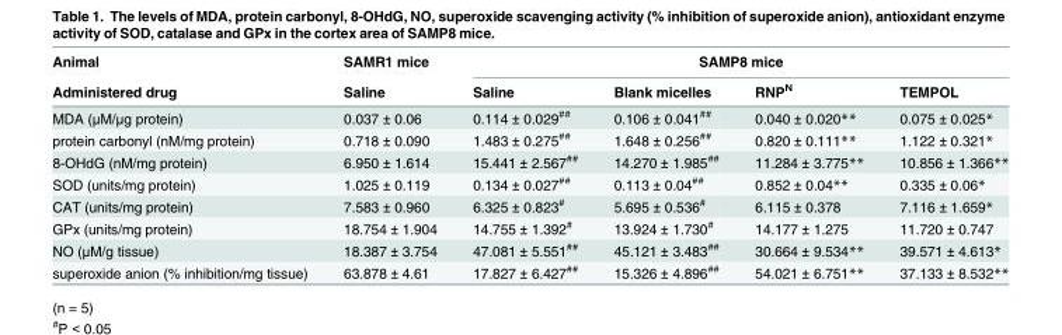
<table><thead><tr><td rowspan="2">Animal Administered drug</td><td rowspan="2">SAMR1 mice Saline</td><td colspan="4">SAMP8 mice</td></tr><tr><td>Saline</td><td>Blank micelles</td><td>RNP<sup>N</sup></td><td>TEMPOL</td></tr></thead><tbody><tr><td>MDA (μM/μg protein)</td><td>0.037 ± 0.06</td><td>0.114 ± 0.029<sup>##</sup></td><td>0.106 ± 0.041<sup>##</sup></td><td>0.040 ± 0.020**</td><td>0.075 ± 0.025*</td></tr><tr><td>protein carbonyl (nM/mg protein)</td><td>0.718 ± 0.090</td><td>1.483 ± 0.275<sup>##</sup></td><td>1.648 ± 0.256<sup>##</sup></td><td>0.820 ± 0.111**</td><td>1.122 ± 0.321*</td></tr><tr><td>8-OHdG (nM/mg protein)</td><td>6.950 ± 1.614</td><td>15.441 ± 2.567<sup>##</sup></td><td>14.270 ± 1.985<sup>##</sup></td><td>11.284 ± 3.775**</td><td>10.856 ± 1.366**</td></tr><tr><td>SOD (units/mg protein)</td><td>1.025 ± 0.119</td><td>0.134 ± 0.027<sup>##</sup></td><td>0.113 ± 0.04<sup>##</sup></td><td>0.852 ± 0.04**</td><td>0.335 ± 0.06*</td></tr><tr><td>CAT (units/mg protein)</td><td>7.583 ± 0.960</td><td>6.325 ± 0.823<sup>#</sup></td><td>5.695 ± 0.536<sup>#</sup></td><td>6.115 ± 0.378</td><td>7.116 ± 1.659*</td></tr><tr><td>GPx (units/mg protein)</td><td>18.754 ± 1.904</td><td>14.755 ± 1.392<sup>#</sup></td><td>13.924 ± 1.730<sup>#</sup></td><td>14.177 ± 1.275</td><td>11.720 ± 0.747</td></tr><tr><td>NO (μM/g tissue)</td><td>18.387 ± 3.754</td><td>47.081 ± 5.551<sup>##</sup></td><td>45.121 ± 3.483<sup>##</sup></td><td>30.664 ± 9.534**</td><td>39.571 ± 4.613*</td></tr><tr><td>superoxide anion (% inhibition/mg tissue)</td><td>63.878 ± 4.61</td><td>17.827 ± 6.427<sup>##</sup></td><td>15.326 ± 4.896<sup>##</sup></td><td>54.021 ± 6.751**</td><td>37.133 ± 8.532**</td></tr></tbody></table>